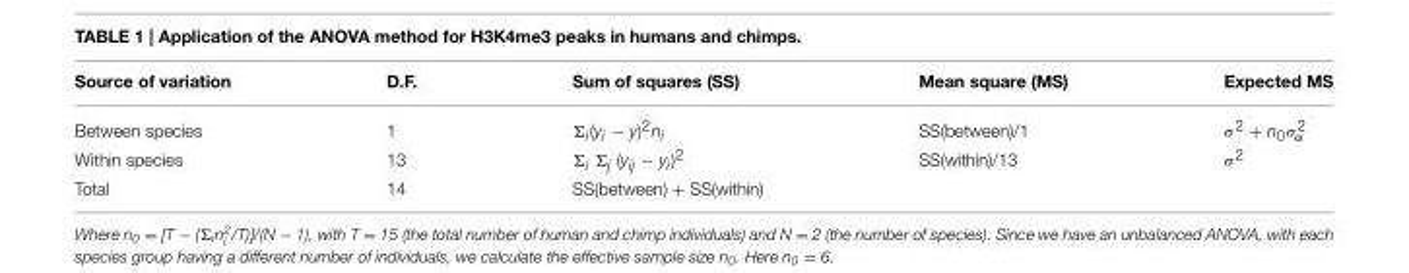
<table><thead><tr><td>Source of variation</td><td>D.F.</td><td>Sum of squares (SS)</td><td>Mean square (MS)</td><td>Expected MS</td></tr></thead><tbody><tr><td>Between species</td><td>1</td><td>Σ<sub>i</sub>(y<sub>i</sub> − y)<sup>2</sup>n<sub>i</sub></td><td>SS(between)/1</td><td>σ<sup>2</sup> + n<sub>0</sub>σ<sup>2</sup><sub>α</sub></td></tr><tr><td>Within species</td><td>13</td><td>Σ<sub>i</sub> Σ<sub>j</sub> (y<sub>ij</sub> − y<sub>i</sub>)<sup>2</sup></td><td>SS(within)/13</td><td>σ<sup>2</sup></td></tr><tr><td>Total</td><td>14</td><td>SS(between) + SS(within)</td><td></td><td></td></tr></tbody></table>